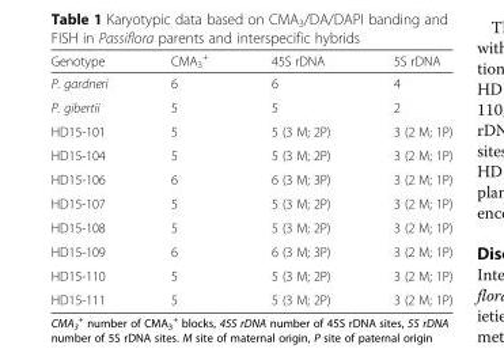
<table><thead><tr><td>Genotype</td><td>CMA<sub>3</sub> <sup>+</sup></td><td>45S rDNA</td><td>5S rDNA</td></tr></thead><tbody><tr><td>P. gardneri</td><td>6</td><td>6</td><td>4</td></tr><tr><td>P. gibertii</td><td>5</td><td>5</td><td>2</td></tr><tr><td>HD15-101</td><td>5</td><td>5 (3 M; 2P)</td><td>3 (2 M; 1P)</td></tr><tr><td>HD15-104</td><td>5</td><td>5 (3 M; 2P)</td><td>3 (2 M; 1P)</td></tr><tr><td>HD15-106</td><td>6</td><td>6 (3 M; 3P)</td><td>3 (2 M; 1P)</td></tr><tr><td>HD15-107</td><td>5</td><td>5 (3 M; 2P)</td><td>3 (2 M; 1P)</td></tr><tr><td>HD15-108</td><td>5</td><td>5 (3 M; 2P)</td><td>3 (2 M; 1P)</td></tr><tr><td>HD15-109</td><td>6</td><td>6 (3 M; 3P)</td><td>3 (2 M; 1P)</td></tr><tr><td>HD15-110</td><td>5</td><td>5 (3 M; 2P)</td><td>3 (2 M; 1P)</td></tr><tr><td>HD15-111</td><td>5</td><td>5 (3 M; 2P)</td><td>3 (2 M; 1P)</td></tr></tbody></table>